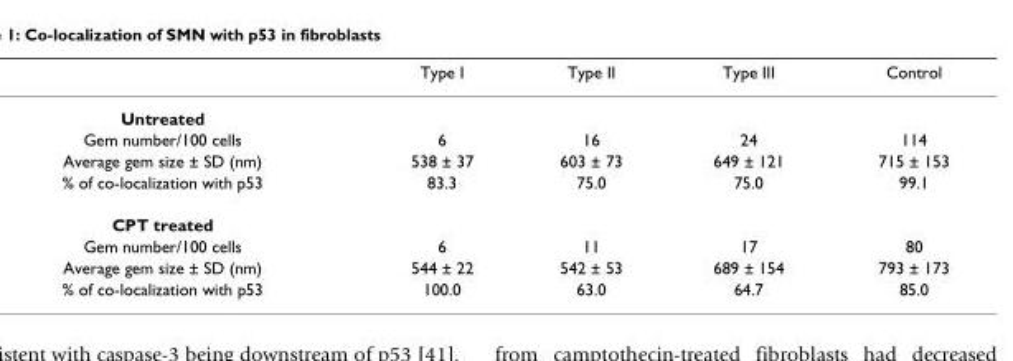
<table><thead><tr><td></td><td>Type I</td><td>Type II</td><td>Type III</td><td>Control</td></tr></thead><tbody><tr><td colspan="5">Untreated</td></tr><tr><td>Gem number/100 cells</td><td>6</td><td>16</td><td>24</td><td>114</td></tr><tr><td>Average gem size ± SD (nm)</td><td>538 ± 37</td><td>603 ± 73</td><td>649 ± 121</td><td>715 ± 153</td></tr><tr><td>% of co-localization with p53</td><td>83.3</td><td>75.0</td><td>75.0</td><td>99.1</td></tr><tr><td colspan="5">CPT treated</td></tr><tr><td>Gem number/100 cells</td><td>6</td><td>11</td><td>17</td><td>80</td></tr><tr><td>Average gem size ± SD (nm)</td><td>544 ± 22</td><td>542 ± 53</td><td>689 ± 154</td><td>793 ± 173</td></tr><tr><td>% of co-localization with p53</td><td>100.0</td><td>63.0</td><td>64.7</td><td>85.0</td></tr></tbody></table>